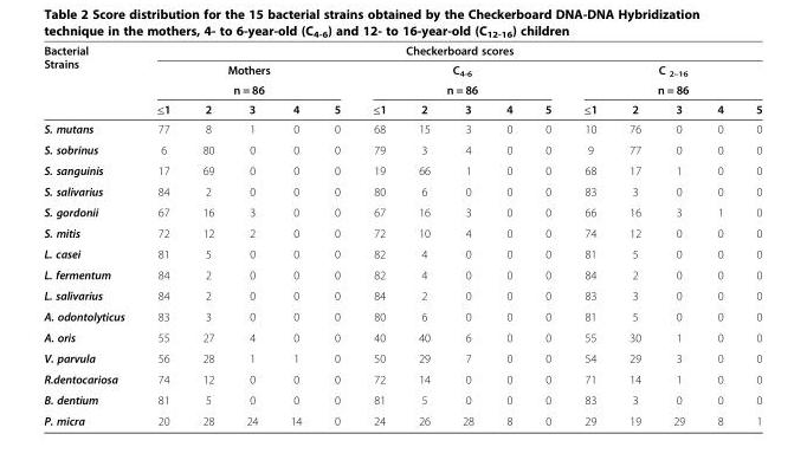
<table><thead><tr><td rowspan="4">Bacterial Strains</td><td colspan="15">Checkerboard scores</td></tr><tr><td rowspan="2" colspan="5">Mothers n = 86</td><td rowspan="2" colspan="5">C<sub>4-6</sub> n = 86</td><td rowspan="2" colspan="5">C <sub>2–16</sub> n = 86</td></tr><tr></tr><tr><td>≤1</td><td>2</td><td>3</td><td>4</td><td>5</td><td>≤1</td><td>2</td><td>3</td><td>4</td><td>5</td><td>≤1</td><td>2</td><td>3</td><td>4</td><td>5</td></tr></thead><tbody><tr><td>S. mutans</td><td>77</td><td>8</td><td>1</td><td>0</td><td>0</td><td>68</td><td>15</td><td>3</td><td>0</td><td>0</td><td>10</td><td>76</td><td>0</td><td>0</td><td>0</td></tr><tr><td>S. sobrinus</td><td>6</td><td>80</td><td>0</td><td>0</td><td>0</td><td>79</td><td>3</td><td>4</td><td>0</td><td>0</td><td>9</td><td>77</td><td>0</td><td>0</td><td>0</td></tr><tr><td>S. sanguinis</td><td>17</td><td>69</td><td>0</td><td>0</td><td>0</td><td>19</td><td>66</td><td>1</td><td>0</td><td>0</td><td>68</td><td>17</td><td>1</td><td>0</td><td>0</td></tr><tr><td>S. salivarius</td><td>84</td><td>2</td><td>0</td><td>0</td><td>0</td><td>80</td><td>6</td><td>0</td><td>0</td><td>0</td><td>83</td><td>3</td><td>0</td><td>0</td><td>0</td></tr><tr><td>S. gordonii</td><td>67</td><td>16</td><td>3</td><td>0</td><td>0</td><td>67</td><td>16</td><td>3</td><td>0</td><td>0</td><td>66</td><td>16</td><td>3</td><td>1</td><td>0</td></tr><tr><td>S. mitis</td><td>72</td><td>12</td><td>2</td><td>0</td><td>0</td><td>72</td><td>10</td><td>4</td><td>0</td><td>0</td><td>74</td><td>12</td><td>0</td><td>0</td><td>0</td></tr><tr><td>L. casei</td><td>81</td><td>5</td><td>0</td><td>0</td><td>0</td><td>82</td><td>4</td><td>0</td><td>0</td><td>0</td><td>81</td><td>5</td><td>0</td><td>0</td><td>0</td></tr><tr><td>L. fermentum</td><td>84</td><td>2</td><td>0</td><td>0</td><td>0</td><td>82</td><td>4</td><td>0</td><td>0</td><td>0</td><td>84</td><td>2</td><td>0</td><td>0</td><td>0</td></tr><tr><td>L. salivarius</td><td>84</td><td>2</td><td>0</td><td>0</td><td>0</td><td>84</td><td>2</td><td>0</td><td>0</td><td>0</td><td>83</td><td>3</td><td>0</td><td>0</td><td>0</td></tr><tr><td>A. odontolyticus</td><td>83</td><td>3</td><td>0</td><td>0</td><td>0</td><td>80</td><td>6</td><td>0</td><td>0</td><td>0</td><td>81</td><td>5</td><td>0</td><td>0</td><td>0</td></tr><tr><td>A. oris</td><td>55</td><td>27</td><td>4</td><td>0</td><td>0</td><td>40</td><td>40</td><td>6</td><td>0</td><td>0</td><td>55</td><td>30</td><td>1</td><td>0</td><td>0</td></tr><tr><td>V. parvula</td><td>56</td><td>28</td><td>1</td><td>1</td><td>0</td><td>50</td><td>29</td><td>7</td><td>0</td><td>0</td><td>54</td><td>29</td><td>3</td><td>0</td><td>0</td></tr><tr><td>R.dentocariosa</td><td>74</td><td>12</td><td>0</td><td>0</td><td>0</td><td>72</td><td>14</td><td>0</td><td>0</td><td>0</td><td>71</td><td>14</td><td>1</td><td>0</td><td>0</td></tr><tr><td>B. dentium</td><td>81</td><td>5</td><td>0</td><td>0</td><td>0</td><td>81</td><td>5</td><td>0</td><td>0</td><td>0</td><td>83</td><td>3</td><td>0</td><td>0</td><td>0</td></tr><tr><td>P. micra</td><td>20</td><td>28</td><td>24</td><td>14</td><td>0</td><td>24</td><td>26</td><td>28</td><td>8</td><td>0</td><td>29</td><td>19</td><td>29</td><td>8</td><td>1</td></tr></tbody></table>